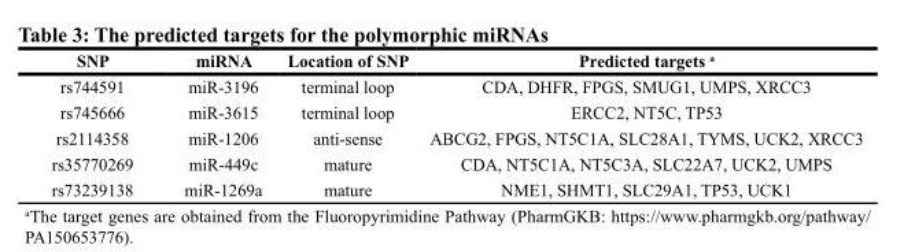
<table><thead><tr><td>SNP</td><td>miRNA</td><td>Location of SNP</td><td>Predicted targets <sup>a</sup></td></tr></thead><tbody><tr><td>rs744591</td><td>miR-3196</td><td>terminal loop</td><td>CDA, DHFR, FPGS, SMUG1, UMPS, XRCC3</td></tr><tr><td>rs745666</td><td>miR-3615</td><td>terminal loop</td><td>ERCC2, NT5C, TP53</td></tr><tr><td>rs2114358</td><td>miR-1206</td><td>anti-sense</td><td>ABCG2, FPGS, NT5C1A, SLC28A1, TYMS, UCK2, XRCC3</td></tr><tr><td>rs35770269</td><td>miR-449c</td><td>mature</td><td>CDA, NT5C1A, NT5C3A, SLC22A7, UCK2, UMPS</td></tr><tr><td>rs73239138</td><td>miR-1269a</td><td>mature</td><td>NME1, SHMT1, SLC29A1, TP53, UCK1</td></tr></tbody></table>